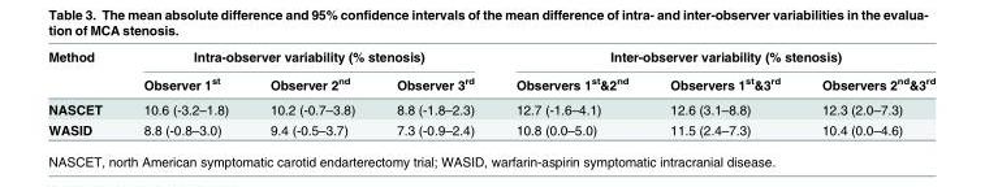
<table><thead><tr><td rowspan="2">Method</td><td colspan="3">Intra-observer variability (% stenosis)</td><td colspan="3">Inter-observer variability (% stenosis)</td></tr><tr><td>Observer 1<sup>st</sup></td><td>Observer 2<sup>nd</sup></td><td>Observer 3<sup>rd</sup></td><td>Observers 1<sup>st</sup>&amp;2<sup>nd</sup></td><td>Observers 1<sup>st</sup>&amp;3<sup>rd</sup></td><td>Observers 2<sup>nd</sup>&amp;3<sup>rd</sup></td></tr></thead><tbody><tr><td>NASCET</td><td>10.6 (-3.2–1.8)</td><td>10.2 (-0.7–3.8)</td><td>8.8 (-1.8–2.3)</td><td>12.7 (-1.6–4.1)</td><td>12.6 (3.1–8.8)</td><td>12.3 (2.0–7.3)</td></tr><tr><td>WASID</td><td>8.8 (-0.8–3.0)</td><td>9.4 (-0.5–3.7)</td><td>7.3 (-0.9–2.4)</td><td>10.8 (0.0–5.0)</td><td>11.5 (2.4–7.3)</td><td>10.4 (0.0–4.6)</td></tr></tbody></table>